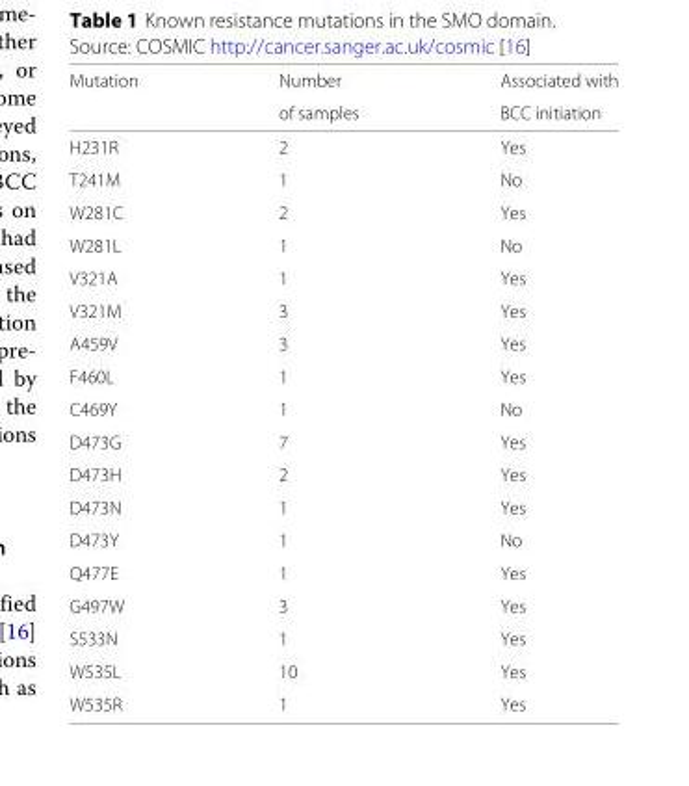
<table><thead><tr><td rowspan="2">Mutation</td><td rowspan="2">Number of samples</td><td rowspan="2">Associated with BCC initiation</td></tr><tr></tr></thead><tbody><tr><td>H231R</td><td>2</td><td>Yes</td></tr><tr><td>T241M</td><td>1</td><td>No</td></tr><tr><td>W281C</td><td>2</td><td>Yes</td></tr><tr><td>W281L</td><td>1</td><td>No</td></tr><tr><td>V321A</td><td>1</td><td>Yes</td></tr><tr><td>V321M</td><td>3</td><td>Yes</td></tr><tr><td>A459V</td><td>3</td><td>Yes</td></tr><tr><td>F460L</td><td>1</td><td>Yes</td></tr><tr><td>C469Y</td><td>1</td><td>No</td></tr><tr><td>D473G</td><td>7</td><td>Yes</td></tr><tr><td>D473H</td><td>2</td><td>Yes</td></tr><tr><td>D473N</td><td>1</td><td>Yes</td></tr><tr><td>D473Y</td><td>1</td><td>No</td></tr><tr><td>Q477E</td><td>1</td><td>Yes</td></tr><tr><td>G497W</td><td>3</td><td>Yes</td></tr><tr><td>S533N</td><td>1</td><td>Yes</td></tr><tr><td>W535L</td><td>10</td><td>Yes</td></tr><tr><td>W535R</td><td>1</td><td>Yes</td></tr></tbody></table>